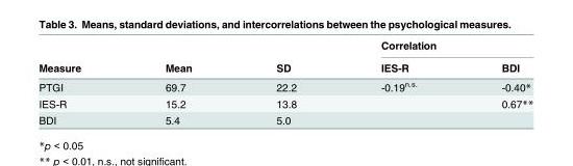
<table><thead><tr><td rowspan="2">Measure</td><td rowspan="2">Mean</td><td rowspan="2">SD</td><td colspan="2">Correlation</td></tr><tr><td>IES-R</td><td>BDI</td></tr></thead><tbody><tr><td>PTGI</td><td>69.7</td><td>22.2</td><td>-0.19<sup>n.s.</sup></td><td>-0.40*</td></tr><tr><td>IES-R</td><td>15.2</td><td>13.8</td><td></td><td>0.67**</td></tr><tr><td>BDI</td><td>5.4</td><td>5.0</td><td></td><td></td></tr></tbody></table>